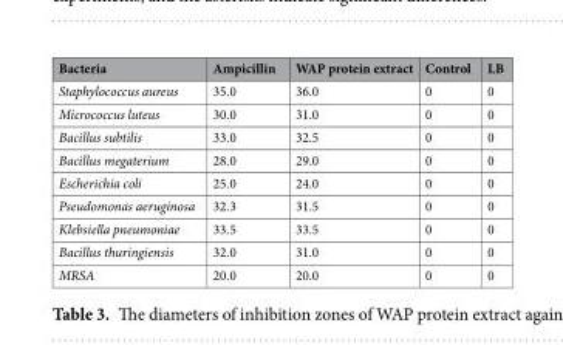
<table><thead><tr><td>Bacteria</td><td>Ampicillin</td><td>WAP protein extract</td><td>Control</td><td>LB</td></tr></thead><tbody><tr><td>Staphylococcus aureus</td><td>35.0</td><td>36.0</td><td>0</td><td>0</td></tr><tr><td>Micrococcus luteus</td><td>30.0</td><td>31.0</td><td>0</td><td>0</td></tr><tr><td>Bacillus subtilis</td><td>33.0</td><td>32.5</td><td>0</td><td>0</td></tr><tr><td>Bacillus megaterium</td><td>28.0</td><td>29.0</td><td>0</td><td>0</td></tr><tr><td>Escherichia coli</td><td>25.0</td><td>24.0</td><td>0</td><td>0</td></tr><tr><td>Pseudomonas aeruginosa</td><td>32.3</td><td>31.5</td><td>0</td><td>0</td></tr><tr><td>Klebsiella pneumoniae</td><td>33.5</td><td>33.5</td><td>0</td><td>0</td></tr><tr><td>Bacillus thuringiensis</td><td>32.0</td><td>31.0</td><td>0</td><td>0</td></tr><tr><td>MRSA</td><td>20.0</td><td>20.0</td><td>0</td><td>0</td></tr></tbody></table>